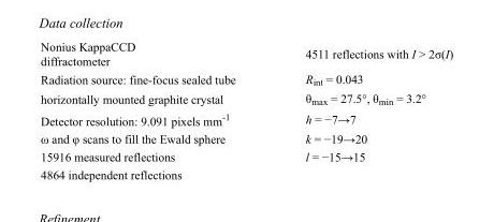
<table><tbody><tr><td>Nonius KappaCCD diffractometer</td><td>4511 reflections with I &gt; 2σ(I)</td></tr><tr><td>Radiation source: fine-focus sealed tube</td><td>R<sub>int</sub> = 0.043</td></tr><tr><td>horizontally mounted graphite crystal</td><td>θ<sub>max</sub> = 27.5°, θ<sub>min</sub> = 3.2°</td></tr><tr><td>Detector resolution: 9.091 pixels mm<sup>-1</sup></td><td>h = −7→7</td></tr><tr><td>ω and φ scans to fill the Ewald sphere</td><td>k = −19→20</td></tr><tr><td>15916 measured reflections</td><td>l = −15→15</td></tr><tr><td>4864 independent reflections</td><td></td></tr></tbody></table>